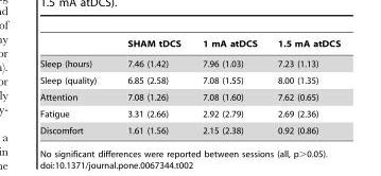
<table><thead><tr><td></td><td>SHAM tDCS</td><td>1 mA atDCS</td><td>1.5 mA atDCS</td></tr></thead><tbody><tr><td>Sleep (hours)</td><td>7.46 (1.42)</td><td>7.96 (1.03)</td><td>7.23 (1.13)</td></tr><tr><td>Sleep (quality)</td><td>6.85 (2.58)</td><td>7.08 (1.55)</td><td>8.00 (1.35)</td></tr><tr><td>Attention</td><td>7.08 (1.26)</td><td>7.08 (1.60)</td><td>7.62 (0.65)</td></tr><tr><td>Fatigue</td><td>3.31 (2.66)</td><td>2.92 (2.79)</td><td>2.69 (2.36)</td></tr><tr><td>Discomfort</td><td>1.61 (1.56)</td><td>2.15 (2.38)</td><td>0.92 (0.86)</td></tr></tbody></table>